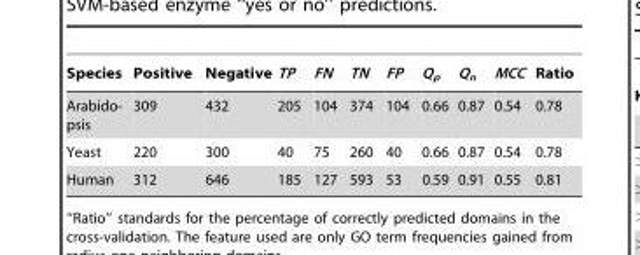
<table><thead><tr><td>Species</td><td>Positive</td><td>Negative</td><td>TP</td><td>FN</td><td>TN</td><td>FP</td><td>Q<sub>p</sub></td><td>Q<sub>n</sub></td><td>MCC</td><td>Ratio</td></tr></thead><tbody><tr><td>Arabido- psis</td><td>309</td><td>432</td><td>205</td><td>104</td><td>374</td><td>104</td><td>0.66</td><td>0.87</td><td>0.54</td><td>0.78</td></tr><tr><td>Yeast</td><td>220</td><td>300</td><td>40</td><td>75</td><td>260</td><td>40</td><td>0.66</td><td>0.87</td><td>0.54</td><td>0.78</td></tr><tr><td>Human</td><td>312</td><td>646</td><td>185</td><td>127</td><td>593</td><td>53</td><td>0.59</td><td>0.91</td><td>0.55</td><td>0.81</td></tr></tbody></table>